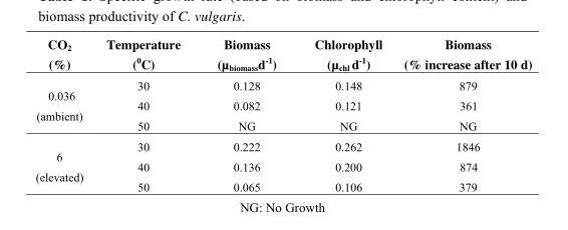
<table><thead><tr><td>CO<sub>2</sub> (%)</td><td>Temperature (°C)</td><td>Biomass (µ<sub>biomass</sub>d<sup>-1</sup>)</td><td>Chlorophyll (µ<sub>chl</sub> d<sup>-1</sup>)</td><td>Biomass (% increase after 10 d)</td></tr></thead><tbody><tr><td rowspan="3">0.036 (ambient)</td><td>30</td><td>0.128</td><td>0.148</td><td>879</td></tr><tr><td>40</td><td>0.082</td><td>0.121</td><td>361</td></tr><tr><td>50</td><td>NG</td><td>NG</td><td>NG</td></tr><tr><td rowspan="3">6 (elevated)</td><td>30</td><td>0.222</td><td>0.262</td><td>1846</td></tr><tr><td>40</td><td>0.136</td><td>0.200</td><td>874</td></tr><tr><td>50</td><td>0.065</td><td>0.106</td><td>379</td></tr></tbody></table>